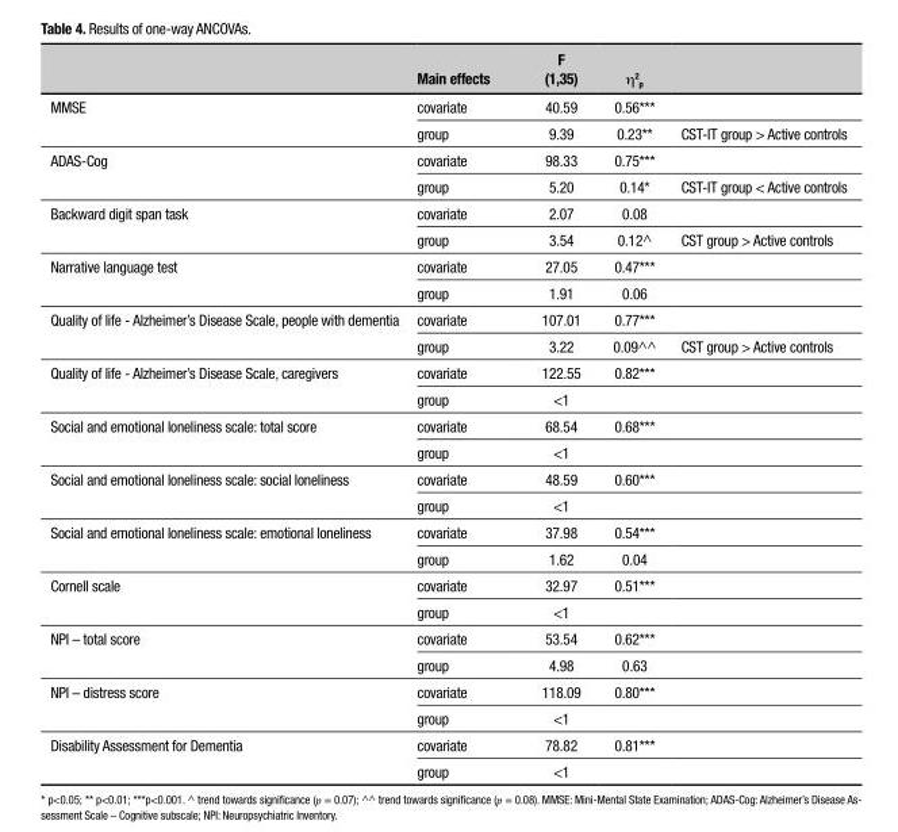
<table><thead><tr><td></td><td>Main effects</td><td>F (1,35)</td><td>η<sup>2</sup> <sub>p</sub></td><td></td></tr></thead><tbody><tr><td rowspan="2">MMSE</td><td>covariate</td><td>40.59</td><td>0.56***</td><td></td></tr><tr><td>group</td><td>9.39</td><td>0.23**</td><td>CST-IT group &gt; Active controls</td></tr><tr><td rowspan="2">ADAS-Cog</td><td>covariate</td><td>98.33</td><td>0.75***</td><td></td></tr><tr><td>group</td><td>5.20</td><td>0.14*</td><td>CST-IT group &lt; Active controls</td></tr><tr><td rowspan="2">Backward digit span task</td><td>covariate</td><td>2.07</td><td>0.08</td><td></td></tr><tr><td>group</td><td>3.54</td><td>0.12^</td><td>CST group &gt; Active controls</td></tr><tr><td rowspan="2">Narrative language test</td><td>covariate</td><td>27.05</td><td>0.47***</td><td></td></tr><tr><td>group</td><td>1.91</td><td>0.06</td><td></td></tr><tr><td rowspan="2">Quality of life - Alzheimer’s Disease Scale, people with dementia</td><td>covariate</td><td>107.01</td><td>0.77***</td><td></td></tr><tr><td>group</td><td>3.22</td><td>0.09^^</td><td>CST group &gt; Active controls</td></tr><tr><td rowspan="2">Quality of life - Alzheimer’s Disease Scale, caregivers</td><td>covariate</td><td>122.55</td><td>0.82***</td><td></td></tr><tr><td>group</td><td>&lt;1</td><td></td><td></td></tr><tr><td rowspan="2">Social and emotional loneliness scale: total score</td><td>covariate</td><td>68.54</td><td>0.68***</td><td></td></tr><tr><td>group</td><td>&lt;1</td><td></td><td></td></tr><tr><td rowspan="2">Social and emotional loneliness scale: social loneliness</td><td>covariate</td><td>48.59</td><td>0.60***</td><td></td></tr><tr><td>group</td><td>&lt;1</td><td></td><td></td></tr><tr><td rowspan="2">Social and emotional loneliness scale: emotional loneliness</td><td>covariate</td><td>37.98</td><td>0.54***</td><td></td></tr><tr><td>group</td><td>1.62</td><td>0.04</td><td></td></tr><tr><td rowspan="2">Cornell scale</td><td>covariate</td><td>32.97</td><td>0.51***</td><td></td></tr><tr><td>group</td><td>&lt;1</td><td></td><td></td></tr><tr><td rowspan="2">NPI – total score</td><td>covariate</td><td>53.54</td><td>0.62***</td><td></td></tr><tr><td>group</td><td>4.98</td><td>0.63</td><td></td></tr><tr><td rowspan="2">NPI – distress score</td><td>covariate</td><td>118.09</td><td>0.80***</td><td></td></tr><tr><td>group</td><td>&lt;1</td><td></td><td></td></tr><tr><td rowspan="2">Disability Assessment for Dementia</td><td>covariate</td><td>78.82</td><td>0.81***</td><td></td></tr><tr><td>group</td><td>&lt;1</td><td></td><td></td></tr></tbody></table>